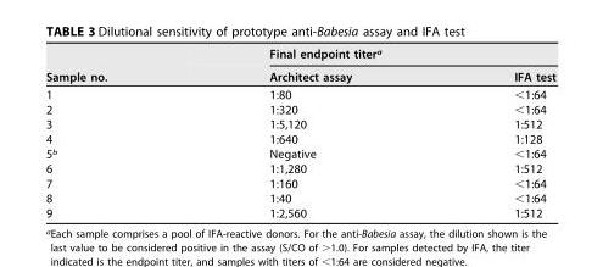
<table><thead><tr><td rowspan="2">Sample no.</td><td colspan="2">Final endpoint titer<sup>a</sup></td></tr><tr><td>Architect assay</td><td>IFA test</td></tr></thead><tbody><tr><td>1</td><td>1:80</td><td>&lt;1:64</td></tr><tr><td>2</td><td>1:320</td><td>&lt;1:64</td></tr><tr><td>3</td><td>1:5,120</td><td>1:512</td></tr><tr><td>4</td><td>1:640</td><td>1:128</td></tr><tr><td>5<sup>b</sup></td><td>Negative</td><td>&lt;1:64</td></tr><tr><td>6</td><td>1:1,280</td><td>1:512</td></tr><tr><td>7</td><td>1:160</td><td>&lt;1:64</td></tr><tr><td>8</td><td>1:40</td><td>&lt;1:64</td></tr><tr><td>9</td><td>1:2,560</td><td>1:512</td></tr></tbody></table>